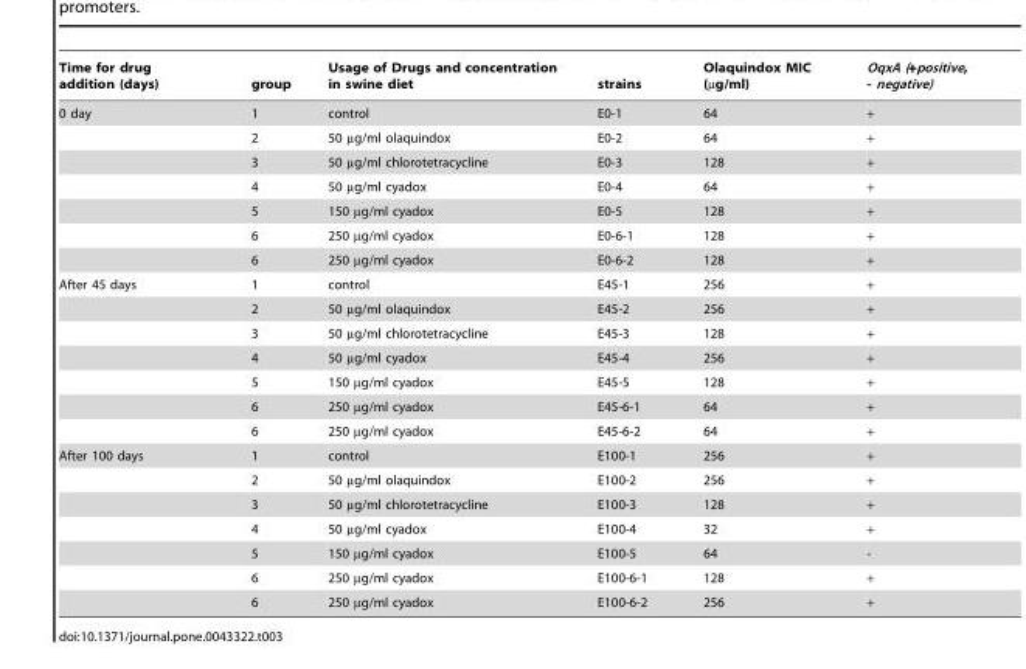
<table><thead><tr><td>Time for drug addition (days)</td><td>group</td><td>Usage of Drugs and concentration in swine diet</td><td>strains</td><td>Olaquindox MIC (µg/ml)</td><td>OqxA (+positive, - negative)</td></tr></thead><tbody><tr><td rowspan="7">0 day</td><td>1</td><td>control</td><td>E0-1</td><td>64</td><td>+</td></tr><tr><td>2</td><td>50 µg/ml olaquindox</td><td>E0-2</td><td>64</td><td>+</td></tr><tr><td>3</td><td>50 µg/ml chlorotetracycline</td><td>E0-3</td><td>128</td><td>+</td></tr><tr><td>4</td><td>50 µg/ml cyadox</td><td>E0-4</td><td>64</td><td>+</td></tr><tr><td>5</td><td>150 µg/ml cyadox</td><td>E0-5</td><td>128</td><td>+</td></tr><tr><td>6</td><td>250 µg/ml cyadox</td><td>E0-6-1</td><td>128</td><td>+</td></tr><tr><td>6</td><td>250 µg/ml cyadox</td><td>E0-6-2</td><td>128</td><td>+</td></tr><tr><td rowspan="7">After 45 days</td><td>1</td><td>control</td><td>E45-1</td><td>256</td><td>+</td></tr><tr><td>2</td><td>50 µg/ml olaquindox</td><td>E45-2</td><td>256</td><td>+</td></tr><tr><td>3</td><td>50 µg/ml chlorotetracycline</td><td>E45-3</td><td>128</td><td>+</td></tr><tr><td>4</td><td>50 µg/ml cyadox</td><td>E45-4</td><td>256</td><td>+</td></tr><tr><td>5</td><td>150 µg/ml cyadox</td><td>E45-5</td><td>128</td><td>+</td></tr><tr><td>6</td><td>250 µg/ml cyadox</td><td>E45-6-1</td><td>64</td><td>+</td></tr><tr><td>6</td><td>250 µg/ml cyadox</td><td>E45-6-2</td><td>64</td><td>+</td></tr><tr><td rowspan="7">After 100 days</td><td>1</td><td>control</td><td>E100-1</td><td>256</td><td>+</td></tr><tr><td>2</td><td>50 µg/ml olaquindox</td><td>E100-2</td><td>256</td><td>+</td></tr><tr><td>3</td><td>50 µg/ml chlorotetracycline</td><td>E100-3</td><td>128</td><td>+</td></tr><tr><td>4</td><td>50 µg/ml cyadox</td><td>E100-4</td><td>32</td><td>+</td></tr><tr><td>5</td><td>150 µg/ml cyadox</td><td>E100-5</td><td>64</td><td>-</td></tr><tr><td>6</td><td>250 µg/ml cyadox</td><td>E100-6-1</td><td>128</td><td>+</td></tr><tr><td>6</td><td>250 µg/ml cyadox</td><td>E100-6-2</td><td>256</td><td>+</td></tr></tbody></table>